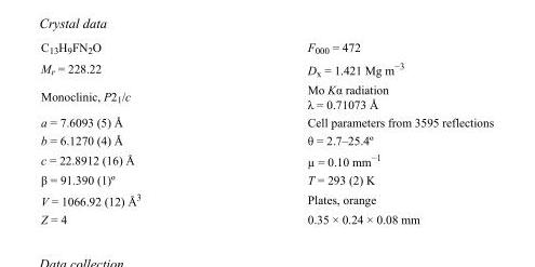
<table><tbody><tr><td>C<sub>13</sub>H<sub>9</sub>FN<sub>2</sub>O</td><td>F000 = 472</td></tr><tr><td>M<sub>r</sub> = 228.22</td><td>D<sub>x</sub> = 1.421 Mg m<sup>−3</sup></td></tr><tr><td>Monoclinic, P2<sub>1</sub>/c</td><td>Mo Kα radiation λ = 0.71073 Å</td></tr><tr><td>a = 7.6093 (5) Å</td><td>Cell parameters from 3595 reflections</td></tr><tr><td>b = 6.1270 (4) Å</td><td>θ = 2.7–25.4º</td></tr><tr><td>c = 22.8912 (16) Å</td><td>µ = 0.10 mm<sup>−1</sup></td></tr><tr><td>β = 91.390 (1)º</td><td>T = 293 (2) K</td></tr><tr><td>V = 1066.92 (12) Å<sup>3</sup></td><td>Plates, orange</td></tr><tr><td>Z = 4</td><td>0.35 × 0.24 × 0.08 mm</td></tr></tbody></table>